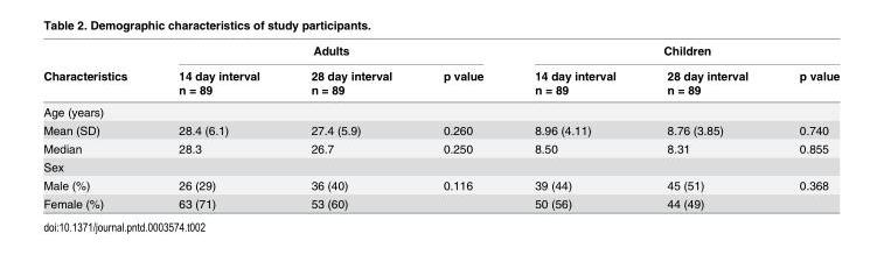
<table><thead><tr><td rowspan="3">Characteristics</td><td colspan="3">Adults</td><td colspan="3">Children</td></tr><tr><td rowspan="2">14 day interval n = 89</td><td rowspan="2">28 day interval n = 89</td><td rowspan="2">p value</td><td rowspan="2">14 day interval n = 89</td><td rowspan="2">28 day interval n = 89</td><td rowspan="2">p value</td></tr><tr></tr></thead><tbody><tr><td colspan="7">Age (years)</td></tr><tr><td>Mean (SD)</td><td>28.4 (6.1)</td><td>27.4 (5.9)</td><td>0.260</td><td>8.96 (4.11)</td><td>8.76 (3.85)</td><td>0.740</td></tr><tr><td>Median</td><td>28.3</td><td>26.7</td><td>0.250</td><td>8.50</td><td>8.31</td><td>0.855</td></tr><tr><td colspan="7">Sex</td></tr><tr><td>Male (%)</td><td>26 (29)</td><td>36 (40)</td><td>0.116</td><td>39 (44)</td><td>45 (51)</td><td>0.368</td></tr><tr><td>Female (%)</td><td>63 (71)</td><td>53 (60)</td><td></td><td>50 (56)</td><td>44 (49)</td><td></td></tr></tbody></table>